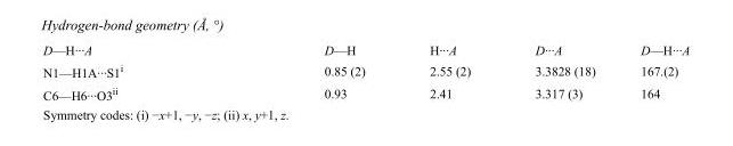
<table><tbody><tr><td>D—H···A</td><td>D—H</td><td>H···A</td><td>D···A</td><td>D—H···A</td></tr><tr><td>N1—H1A···S1<sup>i</sup></td><td>0.85 (2)</td><td>2.55 (2)</td><td>3.3828 (18)</td><td>167.(2)</td></tr><tr><td>C6—H6···O3<sup>ii</sup></td><td>0.93</td><td>2.41</td><td>3.317 (3)</td><td>164</td></tr></tbody></table>